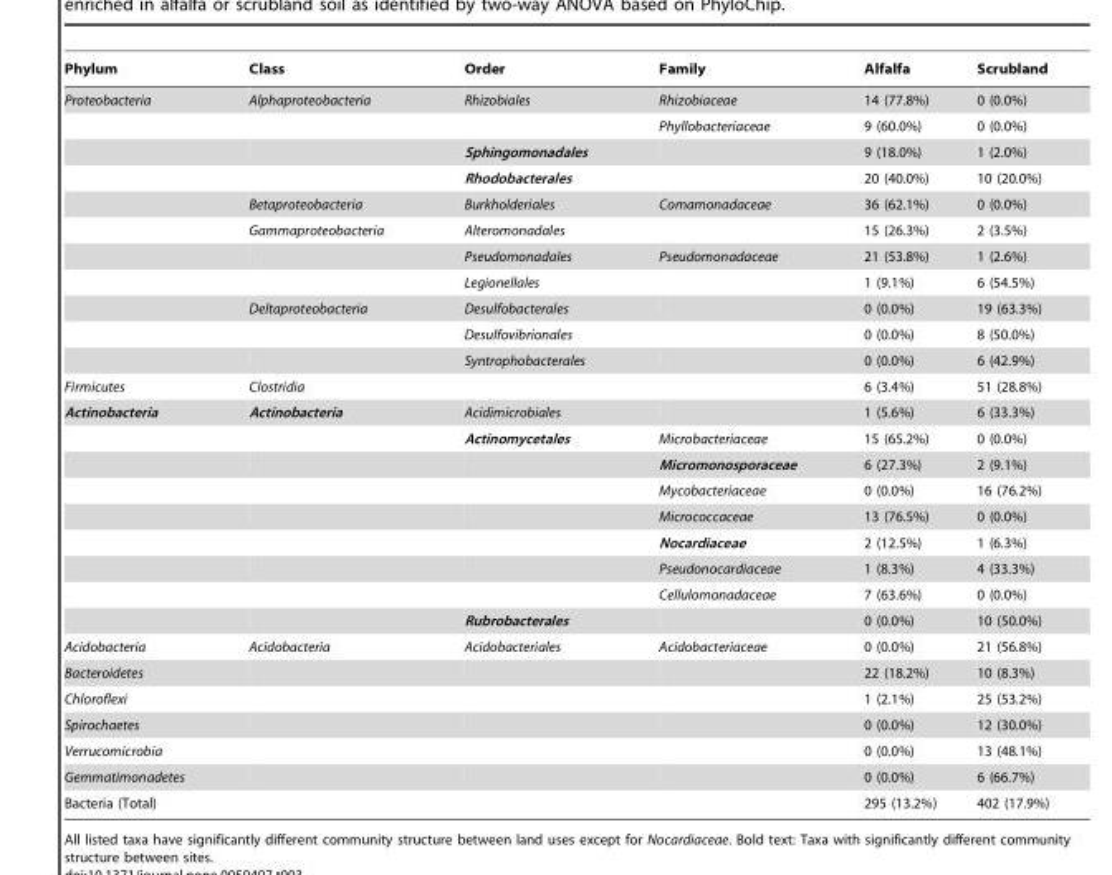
<table><thead><tr><td>Phylum</td><td>Class</td><td>Order</td><td>Family</td><td>Alfalfa</td><td>Scrubland</td></tr></thead><tbody><tr><td rowspan="11">Proteobacteria</td><td>Alphaproteobacteria</td><td>Rhizobiales</td><td>Rhizobiaceae</td><td>14 (77.8%)</td><td>0 (0.0%)</td></tr><tr><td></td><td></td><td>Phyllobacteriaceae</td><td>9 (60.0%)</td><td>0 (0.0%)</td></tr><tr><td></td><td>Sphingomonadales</td><td></td><td>9 (18.0%)</td><td>1 (2.0%)</td></tr><tr><td></td><td>Rhodobacterales</td><td></td><td>20 (40.0%)</td><td>10 (20.0%)</td></tr><tr><td>Betaproteobacteria</td><td>Burkholderiales</td><td>Comamonadaceae</td><td>36 (62.1%)</td><td>0 (0.0%)</td></tr><tr><td>Gammaproteobacteria</td><td>Alteromonadales</td><td></td><td>15 (26.3%)</td><td>2 (3.5%)</td></tr><tr><td></td><td>Pseudomonadales</td><td>Pseudomonadaceae</td><td>21 (53.8%)</td><td>1 (2.6%)</td></tr><tr><td></td><td>Legionellales</td><td></td><td>1 (9.1%)</td><td>6 (54.5%)</td></tr><tr><td>Deltaproteobacteria</td><td>Desulfobacterales</td><td></td><td>0 (0.0%)</td><td>19 (63.3%)</td></tr><tr><td></td><td>Desulfovibrionales</td><td></td><td>0 (0.0%)</td><td>8 (50.0%)</td></tr><tr><td></td><td>Syntrophobacterales</td><td></td><td>0 (0.0%)</td><td>6 (42.9%)</td></tr><tr><td>Firmicutes</td><td>Clostridia</td><td></td><td></td><td>6 (3.4%)</td><td>51 (28.8%)</td></tr><tr><td rowspan="9">Actinobacteria</td><td>Actinobacteria</td><td>Acidimicrobiales</td><td></td><td>1 (5.6%)</td><td>6 (33.3%)</td></tr><tr><td></td><td>Actinomycetales</td><td>Microbacteriaceae</td><td>15 (65.2%)</td><td>0 (0.0%)</td></tr><tr><td></td><td></td><td>Micromonosporaceae</td><td>6 (27.3%)</td><td>2 (9.1%)</td></tr><tr><td></td><td></td><td>Mycobacteriaceae</td><td>0 (0.0%)</td><td>16 (76.2%)</td></tr><tr><td></td><td></td><td>Micrococcaceae</td><td>13 (76.5%)</td><td>0 (0.0%)</td></tr><tr><td></td><td></td><td>Nocardiaceae</td><td>2 (12.5%)</td><td>1 (6.3%)</td></tr><tr><td></td><td></td><td>Pseudonocardiaceae</td><td>1 (8.3%)</td><td>4 (33.3%)</td></tr><tr><td></td><td></td><td>Cellulomonadaceae</td><td>7 (63.6%)</td><td>0 (0.0%)</td></tr><tr><td></td><td>Rubrobacterales</td><td></td><td>0 (0.0%)</td><td>10 (50.0%)</td></tr><tr><td>Acidobacteria</td><td>Acidobacteria</td><td>Acidobacteriales</td><td>Acidobacteriaceae</td><td>0 (0.0%)</td><td>21 (56.8%)</td></tr><tr><td>Bacteroidetes</td><td></td><td></td><td></td><td>22 (18.2%)</td><td>10 (8.3%)</td></tr><tr><td>Chloroflexi</td><td></td><td></td><td></td><td>1 (2.1%)</td><td>25 (53.2%)</td></tr><tr><td>Spirochaetes</td><td></td><td></td><td></td><td>0 (0.0%)</td><td>12 (30.0%)</td></tr><tr><td>Verrucomicrobia</td><td></td><td></td><td></td><td>0 (0.0%)</td><td>13 (48.1%)</td></tr><tr><td>Gemmatimonadetes</td><td></td><td></td><td></td><td>0 (0.0%)</td><td>6 (66.7%)</td></tr><tr><td>Bacteria (Total)</td><td></td><td></td><td></td><td>295 (13.2%)</td><td>402 (17.9%)</td></tr></tbody></table>